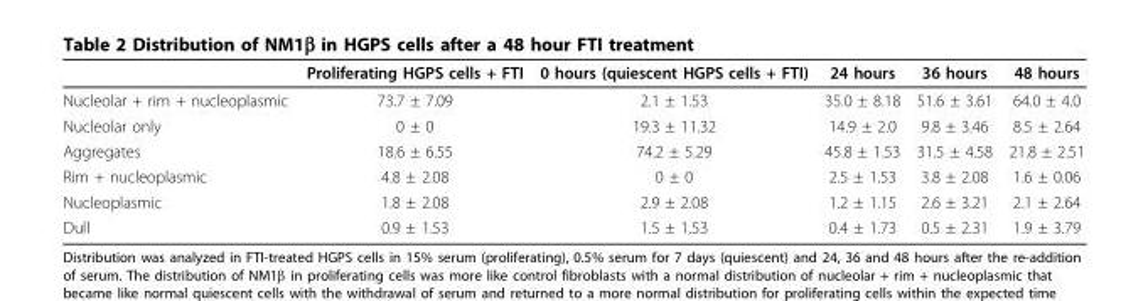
<table><thead><tr><td></td><td>Proliferating HGPS cells + FTI</td><td>0 hours (quiescent HGPS cells + FTI)</td><td>24 hours</td><td>36 hours</td><td>48 hours</td></tr></thead><tbody><tr><td>Nucleolar + rim + nucleoplasmic</td><td>73.7 ± 7.09</td><td>2.1 ± 1.53</td><td>35.0 ± 8.18</td><td>51.6 ± 3.61</td><td>64.0 ± 4.0</td></tr><tr><td>Nucleolar only</td><td>0 ± 0</td><td>19.3 ± 11.32</td><td>14.9 ± 2.0</td><td>9.8 ± 3.46</td><td>8.5 ± 2.64</td></tr><tr><td>Aggregates</td><td>18.6 ± 6.55</td><td>74.2 ± 5.29</td><td>45.8 ± 1.53</td><td>31.5 ± 4.58</td><td>21.8 ± 2.51</td></tr><tr><td>Rim + nucleoplasmic</td><td>4.8 ± 2.08</td><td>0 ± 0</td><td>2.5 ± 1.53</td><td>3.8 ± 2.08</td><td>1.6 ± 0.06</td></tr><tr><td>Nucleoplasmic</td><td>1.8 ± 2.08</td><td>2.9 ± 2.08</td><td>1.2 ± 1.15</td><td>2.6 ± 3.21</td><td>2.1 ± 2.64</td></tr><tr><td>Dull</td><td>0.9 ± 1.53</td><td>1.5 ± 1.53</td><td>0.4 ± 1.73</td><td>0.5 ± 2.31</td><td>1.9 ± 3.79</td></tr></tbody></table>